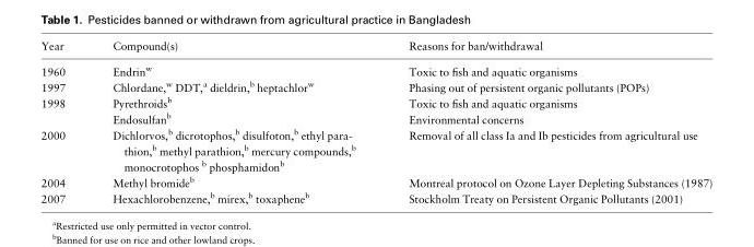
<table><thead><tr><td>Year</td><td>Compound(s)</td><td>Reasons for ban/withdrawal</td></tr></thead><tbody><tr><td>1960</td><td>Endrin<sup>w</sup></td><td>Toxic to fish and aquatic organisms</td></tr><tr><td>1997</td><td>Chlordane,<sup>w</sup> DDT,<sup>a</sup> dieldrin,<sup>b</sup> heptachlor<sup>w</sup></td><td>Phasing out of persistent organic pollutants (POPs)</td></tr><tr><td rowspan="2">1998</td><td>Pyrethroids<sup>b</sup></td><td>Toxic to fish and aquatic organisms</td></tr><tr><td>Endosulfan<sup>b</sup></td><td>Environmental concerns</td></tr><tr><td>2000</td><td>Dichlorvos,b dicrotophos,b disulfoton,b ethyl para- thion,b methyl parathion,b mercury compounds,b monocrotophos b phosphamidonb</td><td>Removal of all class Ia and Ib pesticides from agricultural use</td></tr><tr><td>2004</td><td>Methyl bromide<sup>b</sup></td><td>Montreal protocol on Ozone Layer Depleting Substances (1987)</td></tr><tr><td>2007</td><td>Hexachlorobenzene,<sup>b</sup> mirex,<sup>b</sup> toxaphene<sup>b</sup></td><td>Stockholm Treaty on Persistent Organic Pollutants (2001)</td></tr></tbody></table>